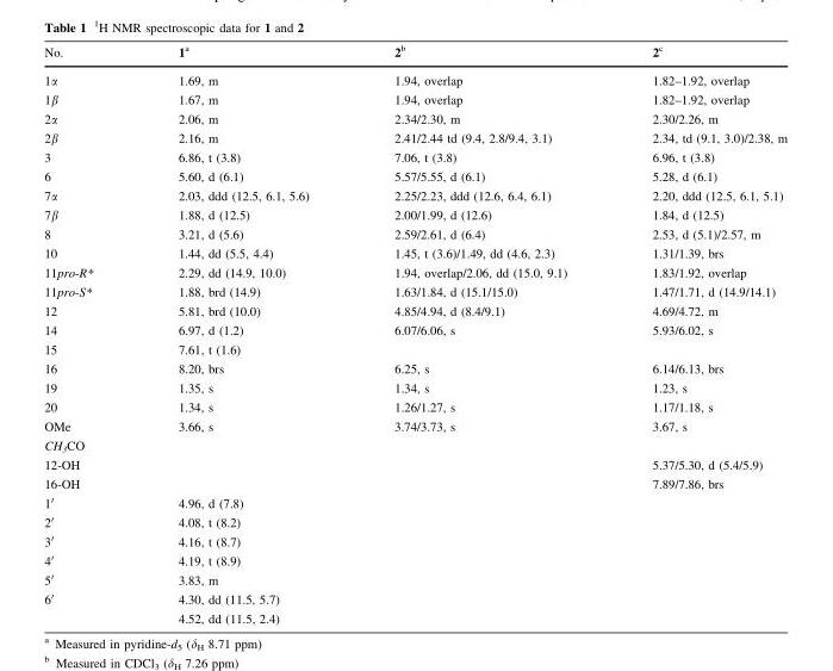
<table><thead><tr><td>No.</td><td>1<sup>a</sup></td><td>2<sup>b</sup></td><td>2<sup>c</sup></td></tr></thead><tbody><tr><td>1α</td><td>1.69, m</td><td>1.94, overlap</td><td>1.82–1.92, overlap</td></tr><tr><td>1β</td><td>1.67, m</td><td>1.94, overlap</td><td>1.82–1.92, overlap</td></tr><tr><td>2α</td><td>2.06, m</td><td>2.34/2.30, m</td><td>2.30/2.26, m</td></tr><tr><td>2β</td><td>2.16, m</td><td>2.41/2.44 td (9.4, 2.8/9.4, 3.1)</td><td>2.34, td (9.1, 3.0)/2.38, m</td></tr><tr><td>3</td><td>6.86, t (3.8)</td><td>7.06, t (3.8)</td><td>6.96, t (3.8)</td></tr><tr><td>6</td><td>5.60, d (6.1)</td><td>5.57/5.55, d (6.1)</td><td>5.28, d (6.1)</td></tr><tr><td>7α</td><td>2.03, ddd (12.5, 6.1, 5.6)</td><td>2.25/2.23, ddd (12.6, 6.4, 6.1)</td><td>2.20, ddd (12.5, 6.1, 5.1)</td></tr><tr><td>7β</td><td>1.88, d (12.5)</td><td>2.00/1.99, d (12.6)</td><td>1.84, d (12.5)</td></tr><tr><td>8</td><td>3.21, d (5.6)</td><td>2.59/2.61, d (6.4)</td><td>2.53, d (5.1)/2.57, m</td></tr><tr><td>10</td><td>1.44, dd (5.5, 4.4)</td><td>1.45, t (3.6)/1.49, dd (4.6, 2.3)</td><td>1.31/1.39, brs</td></tr><tr><td>11pro-R*</td><td>2.29, dd (14.9, 10.0)</td><td>1.94, overlap/2.06, dd (15.0, 9.1)</td><td>1.83/1.92, overlap</td></tr><tr><td>11pro-S*</td><td>1.88, brd (14.9)</td><td>1.63/1.84, d (15.1/15.0)</td><td>1.47/1.71, d (14.9/14.1)</td></tr><tr><td>12</td><td>5.81, brd (10.0)</td><td>4.85/4.94, d (8.4/9.1)</td><td>4.69/4.72, m</td></tr><tr><td>14</td><td>6.97, d (1.2)</td><td>6.07/6.06, s</td><td>5.93/6.02, s</td></tr><tr><td>15</td><td>7.61, t (1.6)</td><td></td><td></td></tr><tr><td>16</td><td>8.20, brs</td><td>6.25, s</td><td>6.14/6.13, brs</td></tr><tr><td>19</td><td>1.35, s</td><td>1.34, s</td><td>1.23, s</td></tr><tr><td>20</td><td>1.34, s</td><td>1.26/1.27, s</td><td>1.17/1.18, s</td></tr><tr><td>OMe</td><td>3.66, s</td><td>3.74/3.73, s</td><td>3.67, s</td></tr><tr><td colspan="4">CH<sub>3</sub>CO</td></tr><tr><td>12-OH</td><td></td><td></td><td>5.37/5.30, d (5.4/5.9)</td></tr><tr><td>16-OH</td><td></td><td></td><td>7.89/7.86, brs</td></tr><tr><td>1′</td><td>4.96, d (7.8)</td><td></td><td></td></tr><tr><td>2′</td><td>4.08, t (8.2)</td><td></td><td></td></tr><tr><td>3′</td><td>4.16, t (8.7)</td><td></td><td></td></tr><tr><td>4′</td><td>4.19, t (8.9)</td><td></td><td></td></tr><tr><td>5′</td><td>3.83, m</td><td></td><td></td></tr><tr><td>6′</td><td>4.30, dd (11.5, 5.7) 4.52, dd (11.5, 2.4)</td><td></td><td></td></tr></tbody></table>